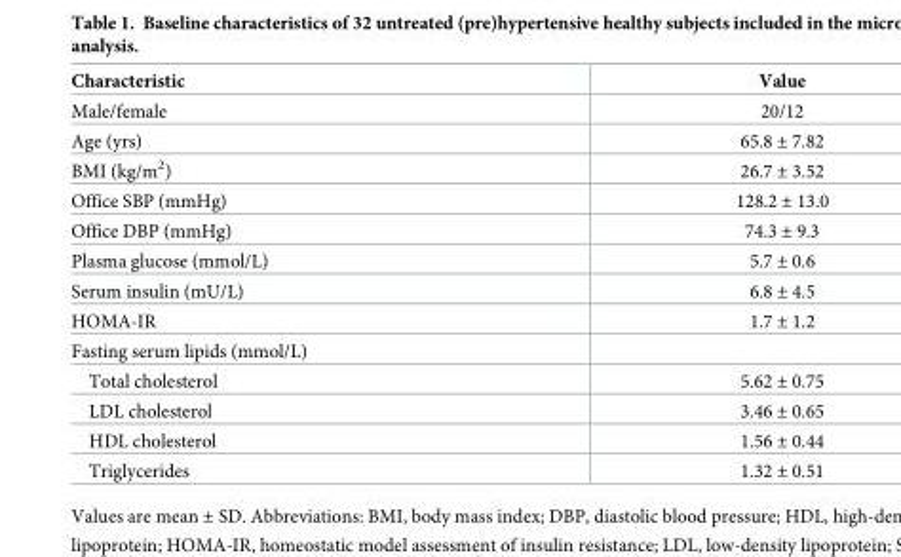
<table><thead><tr><td>Characteristic</td><td>Value</td></tr></thead><tbody><tr><td>Male/female</td><td>20/12</td></tr><tr><td>Age (yrs)</td><td>65.8 ± 7.82</td></tr><tr><td>BMI (kg/m<sup>2</sup>)</td><td>26.7 ± 3.52</td></tr><tr><td>Office SBP (mmHg)</td><td>128.2 ± 13.0</td></tr><tr><td>Office DBP (mmHg)</td><td>74.3 ± 9.3</td></tr><tr><td>Plasma glucose (mmol/L)</td><td>5.7 ± 0.6</td></tr><tr><td>Serum insulin (mU/L)</td><td>6.8 ± 4.5</td></tr><tr><td>HOMA-IR</td><td>1.7 ± 1.2</td></tr><tr><td colspan="2">Fasting serum lipids (mmol/L)</td></tr><tr><td>Total cholesterol</td><td>5.62 ± 0.75</td></tr><tr><td>LDL cholesterol</td><td>3.46 ± 0.65</td></tr><tr><td>HDL cholesterol</td><td>1.56 ± 0.44</td></tr><tr><td>Triglycerides</td><td>1.32 ± 0.51</td></tr></tbody></table>